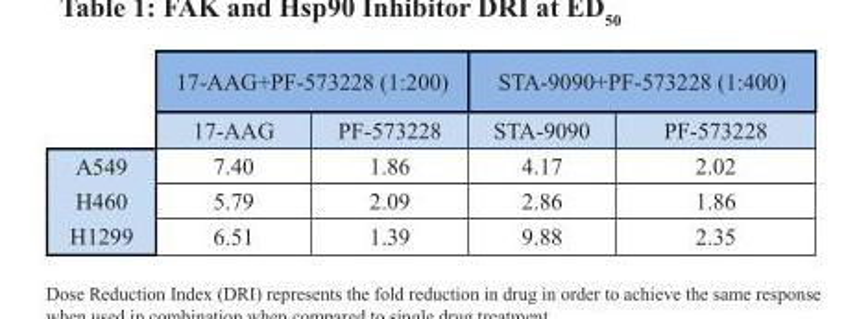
<table><thead><tr><td rowspan="2"></td><td colspan="2">17-AAG+PF-573228 (1:200)</td><td colspan="2">STA-9090+PF-573228 (1:400)</td></tr><tr><td>17-AAG</td><td>PF-573228</td><td>STA-9090</td><td>PF-573228</td></tr></thead><tbody><tr><td>A549</td><td>7.40</td><td>1.86</td><td>4.17</td><td>2.02</td></tr><tr><td>H460</td><td>5.79</td><td>2.09</td><td>2.86</td><td>1.86</td></tr><tr><td>H1299</td><td>6.51</td><td>1.39</td><td>9.88</td><td>2.35</td></tr></tbody></table>